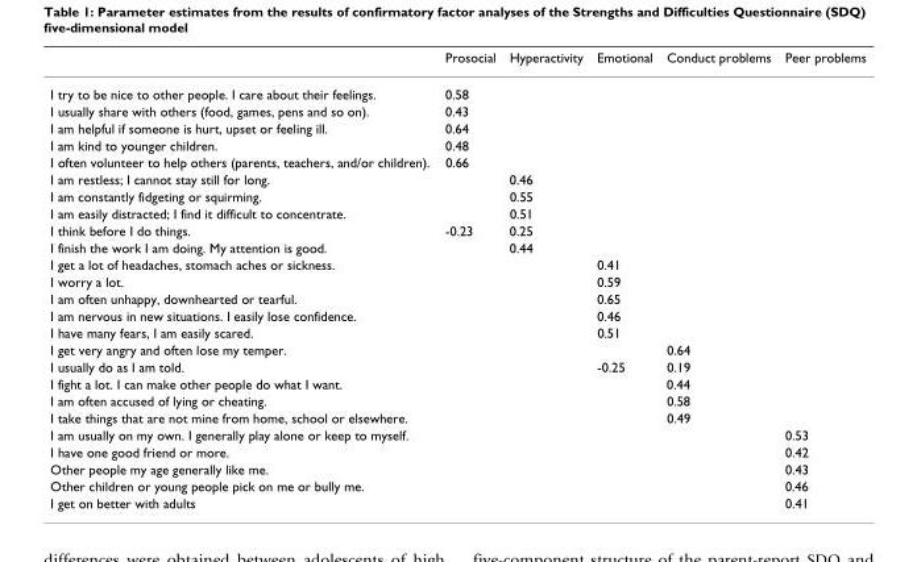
<table><thead><tr><td></td><td>Prosocial</td><td>Hyperactivity</td><td>Emotional</td><td>Conduct problems</td><td>Peer problems</td></tr></thead><tbody><tr><td>I try to be nice to other people. I care about their feelings.</td><td>0.58</td><td></td><td></td><td></td><td></td></tr><tr><td>I usually share with others (food, games, pens and so on).</td><td>0.43</td><td></td><td></td><td></td><td></td></tr><tr><td>I am helpful if someone is hurt, upset or feeling ill.</td><td>0.64</td><td></td><td></td><td></td><td></td></tr><tr><td>I am kind to younger children.</td><td>0.48</td><td></td><td></td><td></td><td></td></tr><tr><td>I often volunteer to help others (parents, teachers, and/or children).</td><td>0.66</td><td></td><td></td><td></td><td></td></tr><tr><td>I am restless; I cannot stay still for long.</td><td></td><td>0.46</td><td></td><td></td><td></td></tr><tr><td>I am constantly fidgeting or squirming.</td><td></td><td>0.55</td><td></td><td></td><td></td></tr><tr><td>I am easily distracted; I find it difficult to concentrate.</td><td></td><td>0.51</td><td></td><td></td><td></td></tr><tr><td>I think before I do things.</td><td>-0.23</td><td>0.25</td><td></td><td></td><td></td></tr><tr><td>I finish the work I am doing. My attention is good.</td><td></td><td>0.44</td><td></td><td></td><td></td></tr><tr><td>I get a lot of headaches, stomach aches or sickness.</td><td></td><td></td><td>0.41</td><td></td><td></td></tr><tr><td>I worry a lot.</td><td></td><td></td><td>0.59</td><td></td><td></td></tr><tr><td>I am often unhappy, downhearted or tearful.</td><td></td><td></td><td>0.65</td><td></td><td></td></tr><tr><td>I am nervous in new situations. I easily lose confidence.</td><td></td><td></td><td>0.46</td><td></td><td></td></tr><tr><td>I have many fears, I am easily scared.</td><td></td><td></td><td>0.51</td><td></td><td></td></tr><tr><td>I get very angry and often lose my temper.</td><td></td><td></td><td></td><td>0.64</td><td></td></tr><tr><td>I usually do as I am told.</td><td></td><td></td><td>-0.25</td><td>0.19</td><td></td></tr><tr><td>I fight a lot. I can make other people do what I want.</td><td></td><td></td><td></td><td>0.44</td><td></td></tr><tr><td>I am often accused of lying or cheating.</td><td></td><td></td><td></td><td>0.58</td><td></td></tr><tr><td>I take things that are not mine from home, school or elsewhere.</td><td></td><td></td><td></td><td>0.49</td><td></td></tr><tr><td>I am usually on my own. I generally play alone or keep to myself.</td><td></td><td></td><td></td><td></td><td>0.53</td></tr><tr><td>I have one good friend or more.</td><td></td><td></td><td></td><td></td><td>0.42</td></tr><tr><td>Other people my age generally like me.</td><td></td><td></td><td></td><td></td><td>0.43</td></tr><tr><td>Other children or young people pick on me or bully me.</td><td></td><td></td><td></td><td></td><td>0.46</td></tr><tr><td>I get on better with adults</td><td></td><td></td><td></td><td></td><td>0.41</td></tr></tbody></table>